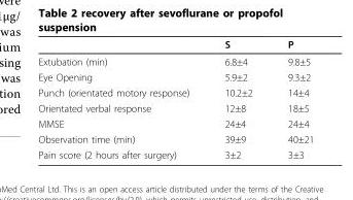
<table><thead><tr><td></td><td>S</td><td>P</td></tr></thead><tbody><tr><td>Extubation (min)</td><td>6.8±4</td><td>9.8±5</td></tr><tr><td>Eye Opening</td><td>5.9±2</td><td>9.3±2</td></tr><tr><td>Punch (orientated motory response)</td><td>10.2±2</td><td>14±4</td></tr><tr><td>Orientated verbal response</td><td>12±8</td><td>18±5</td></tr><tr><td>MMSE</td><td>24±4</td><td>24±4</td></tr><tr><td>Observation time (min)</td><td>39±9</td><td>40±21</td></tr><tr><td>Pain score (2 hours after surgery)</td><td>3±2</td><td>3±3</td></tr></tbody></table>